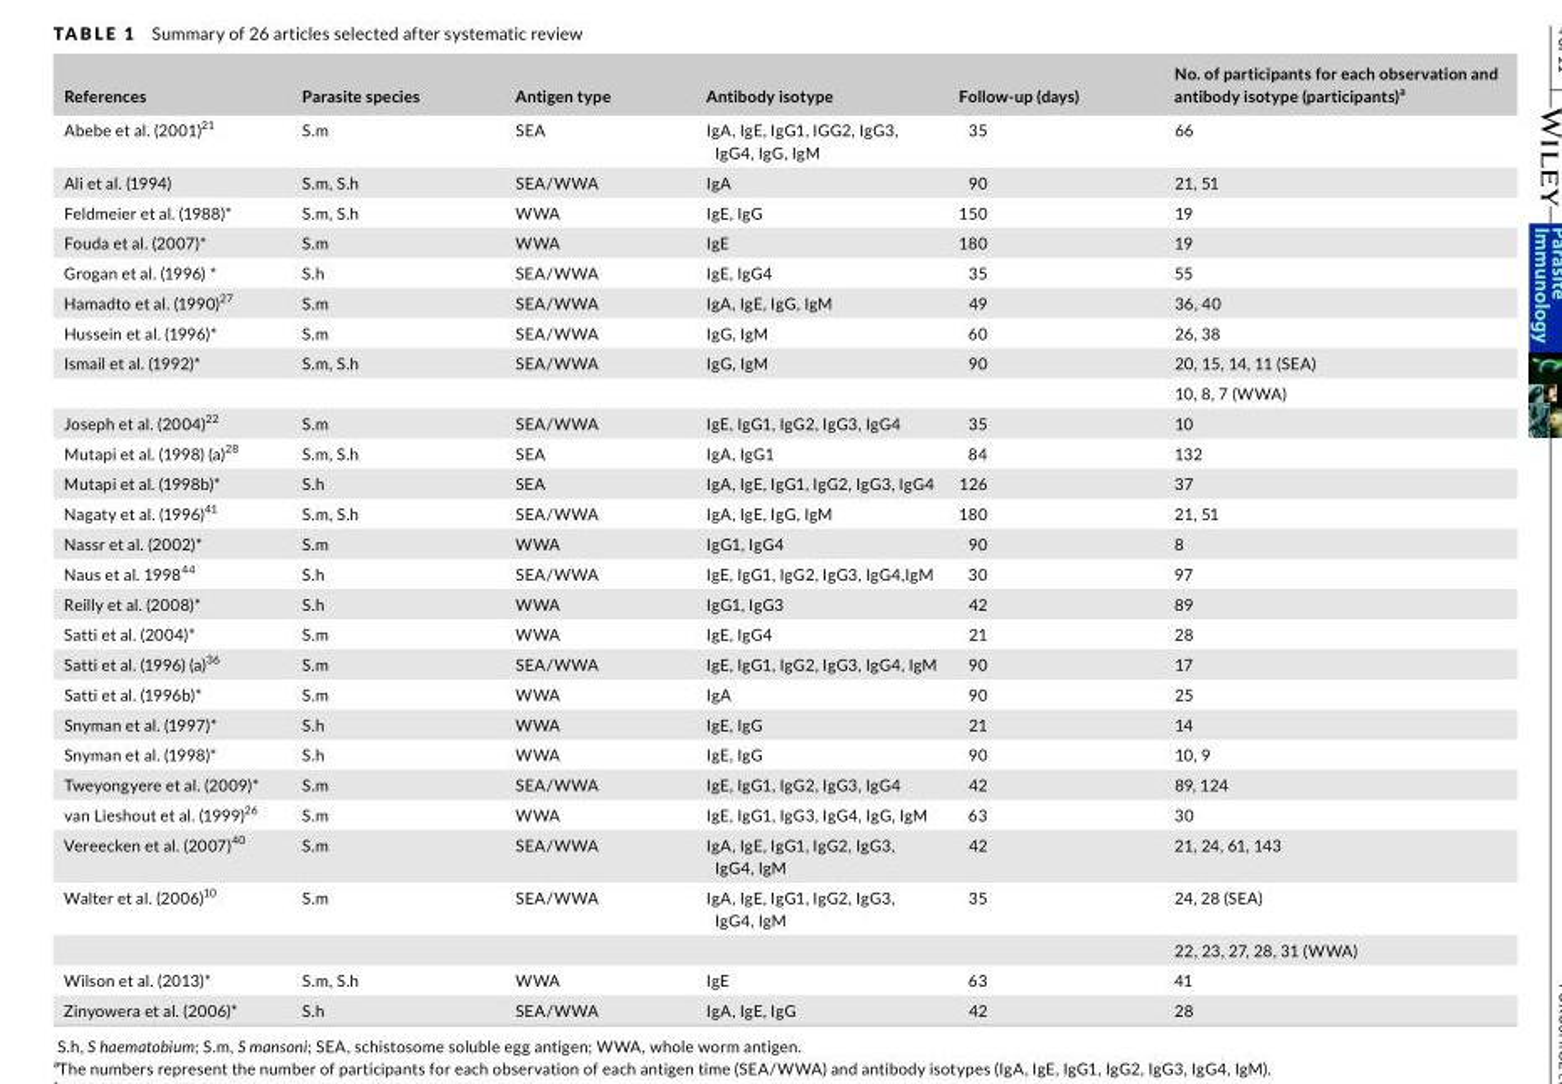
<table><thead><tr><td>References</td><td>Parasite species</td><td>Antigen type</td><td>Antibody isotype</td><td>Follow- up (days)</td><td>No. of participants for each observation and antibody isotype (participants)<sup>a</sup></td></tr></thead><tbody><tr><td>Abebe et al. (2001)<sup>21</sup></td><td>S.m</td><td>SEA</td><td>IgA, IgE, IgG1, IGG2, IgG3, IgG4, IgG, IgM</td><td>35</td><td>66</td></tr><tr><td>Ali et al. (1994)</td><td>S.m, S.h</td><td>SEA/WWA</td><td>IgA</td><td>90</td><td>21, 51</td></tr><tr><td>Feldmeier et al. (1988)*</td><td>S.m, S.h</td><td>WWA</td><td>IgE, IgG</td><td>150</td><td>19</td></tr><tr><td>Fouda et al. (2007)*</td><td>S.m</td><td>WWA</td><td>IgE</td><td>180</td><td>19</td></tr><tr><td>Grogan et al. (1996) *</td><td>S.h</td><td>SEA/WWA</td><td>IgE, IgG4</td><td>35</td><td>55</td></tr><tr><td>Hamadto et al. (1990)<sup>27</sup></td><td>S.m</td><td>SEA/WWA</td><td>IgA, IgE, IgG, IgM</td><td>49</td><td>36, 40</td></tr><tr><td>Hussein et al. (1996)*</td><td>S.m</td><td>SEA/WWA</td><td>IgG, IgM</td><td>60</td><td>26, 38</td></tr><tr><td rowspan="2">Ismail et al. (1992)*</td><td>S.m, S.h</td><td>SEA/WWA</td><td>IgG, IgM</td><td>90</td><td>20, 15, 14, 11 (SEA)</td></tr><tr><td></td><td></td><td></td><td></td><td>10, 8, 7 (WWA)</td></tr><tr><td>Joseph et al. (2004)<sup>22</sup></td><td>S.m</td><td>SEA/WWA</td><td>IgE, IgG1, IgG2, IgG3, IgG4</td><td>35</td><td>10</td></tr><tr><td>Mutapi et al. (1998) (a)<sup>28</sup></td><td>S.m, S.h</td><td>SEA</td><td>IgA, IgG1</td><td>84</td><td>132</td></tr><tr><td>Mutapi et al. (1998b)*</td><td>S.h</td><td>SEA</td><td>IgA, IgE, IgG1, IgG2, IgG3, IgG4</td><td>126</td><td>37</td></tr><tr><td>Nagaty et al. (1996)<sup>41</sup></td><td>S.m, S.h</td><td>SEA/WWA</td><td>IgA, IgE, IgG, IgM</td><td>180</td><td>21, 51</td></tr><tr><td>Nassr et al. (2002)*</td><td>S.m</td><td>WWA</td><td>IgG1, IgG4</td><td>90</td><td>8</td></tr><tr><td>Naus et al. 1998<sup>44</sup></td><td>S.h</td><td>SEA/WWA</td><td>IgE, IgG1, IgG2, IgG3, IgG4,IgM</td><td>30</td><td>97</td></tr><tr><td>Reilly et al. (2008)*</td><td>S.h</td><td>WWA</td><td>IgG1, IgG3</td><td>42</td><td>89</td></tr><tr><td>Satti et al. (2004)*</td><td>S.m</td><td>WWA</td><td>IgE, IgG4</td><td>21</td><td>28</td></tr><tr><td>Satti et al. (1996) (a)<sup>36</sup></td><td>S.m</td><td>SEA/WWA</td><td>IgE, IgG1, IgG2, IgG3, IgG4, IgM</td><td>90</td><td>17</td></tr><tr><td>Satti et al. (1996b)*</td><td>S.m</td><td>WWA</td><td>IgA</td><td>90</td><td>25</td></tr><tr><td>Snyman et al. (1997)*</td><td>S.h</td><td>WWA</td><td>IgE, IgG</td><td>21</td><td>14</td></tr><tr><td>Snyman et al. (1998)*</td><td>S.h</td><td>WWA</td><td>IgE, IgG</td><td>90</td><td>10, 9</td></tr><tr><td>Tweyongyere et al. (2009)*</td><td>S.m</td><td>SEA/WWA</td><td>IgE, IgG1, IgG2, IgG3, IgG4</td><td>42</td><td>89, 124</td></tr><tr><td>van Lieshout et al. (1999)<sup>26</sup></td><td>S.m</td><td>WWA</td><td>IgE, IgG1, IgG3, IgG4, IgG, IgM</td><td>63</td><td>30</td></tr><tr><td>Vereecken et al. (2007)<sup>40</sup></td><td>S.m</td><td>SEA/WWA</td><td>IgA, IgE, IgG1, IgG2, IgG3, IgG4, IgM</td><td>42</td><td>21, 24, 61, 143</td></tr><tr><td rowspan="2">Walter et al. (2006)<sup>10</sup></td><td>S.m</td><td>SEA/WWA</td><td>IgA, IgE, IgG1, IgG2, IgG3, IgG4, IgM</td><td>35</td><td>24, 28 (SEA)</td></tr><tr><td></td><td></td><td></td><td></td><td>22, 23, 27, 28, 31 (WWA)</td></tr><tr><td>Wilson et al. (2013)*</td><td>S.m, S.h</td><td>WWA</td><td>IgE</td><td>63</td><td>41</td></tr><tr><td>Zinyowera et al. (2006)*</td><td>S.h</td><td>SEA/WWA</td><td>IgA, IgE, IgG</td><td>42</td><td>28</td></tr></tbody></table>